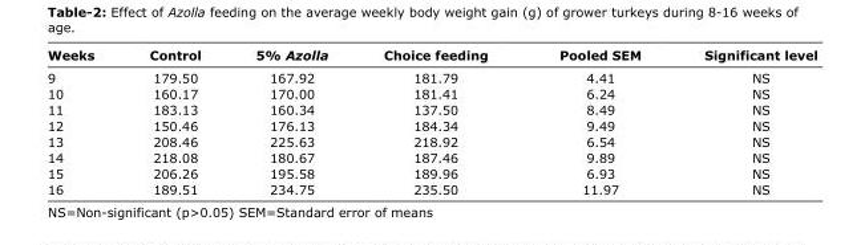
<table><thead><tr><td>Weeks</td><td>Control</td><td>5% Azolla</td><td>Choice feeding</td><td>Pooled SEM</td><td>Significant level</td></tr></thead><tbody><tr><td>9</td><td>179.50</td><td>167.92</td><td>181.79</td><td>4.41</td><td>NS</td></tr><tr><td>10</td><td>160.17</td><td>170.00</td><td>181.41</td><td>6.24</td><td>NS</td></tr><tr><td>11</td><td>183.13</td><td>160.34</td><td>137.50</td><td>8.49</td><td>NS</td></tr><tr><td>12</td><td>150.46</td><td>176.13</td><td>184.34</td><td>9.49</td><td>NS</td></tr><tr><td>13</td><td>208.46</td><td>225.63</td><td>218.92</td><td>6.54</td><td>NS</td></tr><tr><td>14</td><td>218.08</td><td>180.67</td><td>187.46</td><td>9.89</td><td>NS</td></tr><tr><td>15</td><td>206.26</td><td>195.58</td><td>189.96</td><td>6.93</td><td>NS</td></tr><tr><td>16</td><td>189.51</td><td>234.75</td><td>235.50</td><td>11.97</td><td>NS</td></tr></tbody></table>